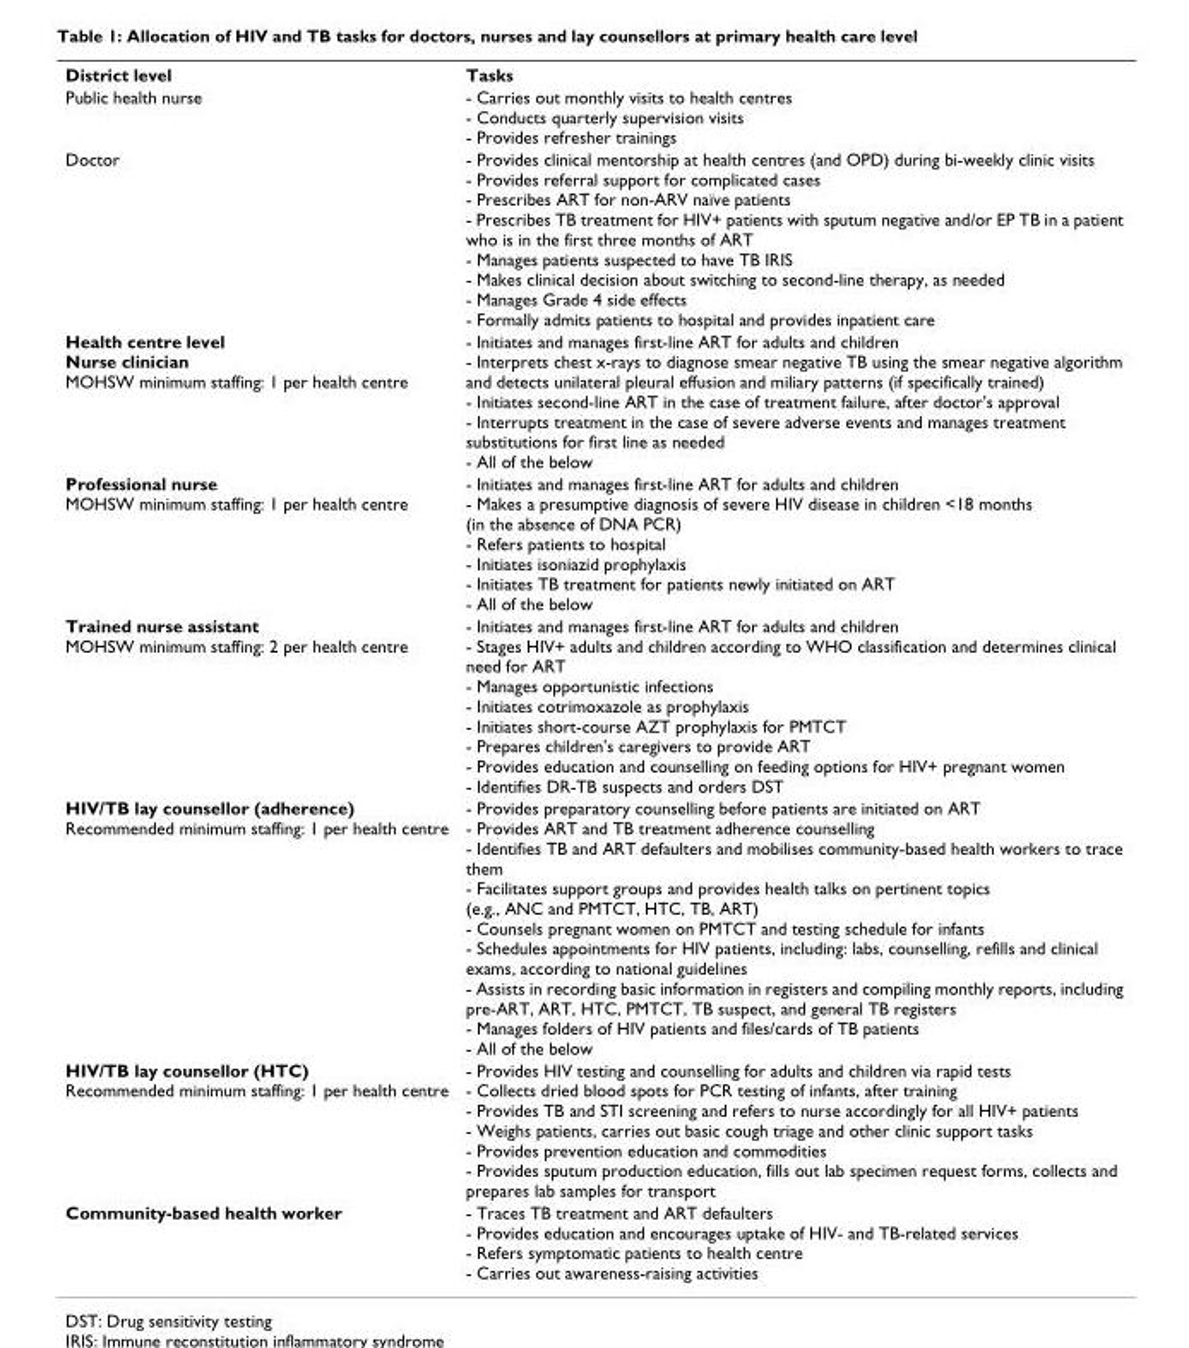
<table><tbody><tr><td>District level</td><td>Tasks</td></tr><tr><td>Public health nurse</td><td>- Carries out monthly visits to health centres - Conducts quarterly supervision visits - Provides refresher trainings</td></tr><tr><td>Doctor</td><td>- Provides clinical mentorship at health centres (and OPD) during bi-weekly clinic visits - Provides referral support for complicated cases - Prescribes ART for non-ARV naïve patients - Prescribes TB treatment for HIV+ patients with sputum negative and/or EP TB in a patient who is in the first three months of ART - Manages patients suspected to have TB IRIS - Makes clinical decision about switching to second-line therapy, as needed - Manages Grade 4 side effects - Formally admits patients to hospital and provides inpatient care</td></tr><tr><td>Health centre level Nurse clinician MOHSW minimum staffing: 1 per health centre</td><td>- Initiates and manages first-line ART for adults and children - Interprets chest x-rays to diagnose smear negative TB using the smear negative algorithm and detects unilateral pleural effusion and miliary patterns (if specifically trained) - Initiates second-line ART in the case of treatment failure, after doctor&#x27;s approval - Interrupts treatment in the case of severe adverse events and manages treatment substitutions for first line as needed - All of the below</td></tr><tr><td>Professional nurse MOHSW minimum staffing: 1 per health centre</td><td>- Initiates and manages first-line ART for adults and children - Makes a presumptive diagnosis of severe HIV disease in children &lt;18 months (in the absence of DNA PCR) - Refers patients to hospital - Initiates isoniazid prophylaxis - Initiates TB treatment for patients newly initiated on ART - All of the below</td></tr><tr><td>Trained nurse assistant MOHSW minimum staffing: 2 per health centre</td><td>- Initiates and manages first-line ART for adults and children - Stages HIV+ adults and children according to WHO classification and determines clinical need for ART - Manages opportunistic infections - Initiates cotrimoxazole as prophylaxis - Initiates short-course AZT prophylaxis for PMTCT - Prepares children&#x27;s caregivers to provide ART - Provides education and counselling on feeding options for HIV+ pregnant women - Identifies DR-TB suspects and orders DST</td></tr><tr><td>HIV/TB lay counsellor (adherence) Recommended minimum staffing: 1 per health centre</td><td>- Provides preparatory counselling before patients are initiated on ART - Provides ART and TB treatment adherence counselling - Identifies TB and ART defaulters and mobilises community-based health workers to trace them - Facilitates support groups and provides health talks on pertinent topics (e.g., ANC and PMTCT, HTC, TB, ART) - Counsels pregnant women on PMTCT and testing schedule for infants - Schedules appointments for HIV patients, including: labs, counselling, refills and clinical exams, according to national guidelines - Assists in recording basic information in registers and compiling monthly reports, including pre-ART, ART, HTC, PMTCT, TB suspect, and general TB registers - Manages folders of HIV patients and files/cards of TB patients - All of the below</td></tr><tr><td>HIV/TB lay counsellor (HTC) Recommended minimum staffing: 1 per health centre</td><td>- Provides HIV testing and counselling for adults and children via rapid tests - Collects dried blood spots for PCR testing of infants, after training - Provides TB and STI screening and refers to nurse accordingly for all HIV+ patients - Weighs patients, carries out basic cough triage and other clinic support tasks - Provides prevention education and commodities - Provides sputum production education, fills out lab specimen request forms, collects and prepares lab samples for transport</td></tr><tr><td>Community-based health worker</td><td>- Traces TB treatment and ART defaulters - Provides education and encourages uptake of HIV- and TB-related services - Refers symptomatic patients to health centre - Carries out awareness-raising activities</td></tr></tbody></table>